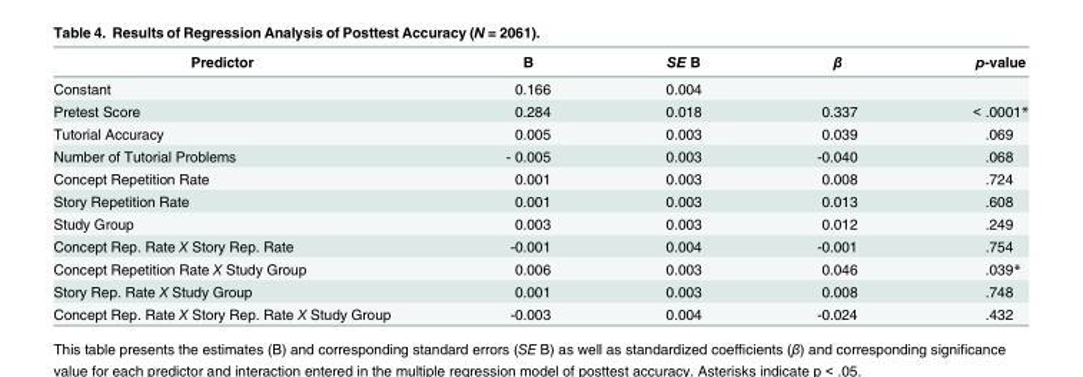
<table><thead><tr><td>Predictor</td><td>B</td><td>SE B</td><td>β</td><td>p-value</td></tr></thead><tbody><tr><td>Constant</td><td>0.166</td><td>0.004</td><td></td><td></td></tr><tr><td>Pretest Score</td><td>0.284</td><td>0.018</td><td>0.337</td><td>&lt; .0001*</td></tr><tr><td>Tutorial Accuracy</td><td>0.005</td><td>0.003</td><td>0.039</td><td>.069</td></tr><tr><td>Number of Tutorial Problems</td><td>- 0.005</td><td>0.003</td><td>-0.040</td><td>.068</td></tr><tr><td>Concept Repetition Rate</td><td>0.001</td><td>0.003</td><td>0.008</td><td>.724</td></tr><tr><td>Story Repetition Rate</td><td>0.001</td><td>0.003</td><td>0.013</td><td>.608</td></tr><tr><td>Study Group</td><td>0.003</td><td>0.003</td><td>0.012</td><td>.249</td></tr><tr><td>Concept Rep. Rate X Story Rep. Rate</td><td>-0.001</td><td>0.004</td><td>-0.001</td><td>.754</td></tr><tr><td>Concept Repetition Rate X Study Group</td><td>0.006</td><td>0.003</td><td>0.046</td><td>.039*</td></tr><tr><td>Story Rep. Rate X Study Group</td><td>0.001</td><td>0.003</td><td>0.008</td><td>.748</td></tr><tr><td>Concept Rep. Rate X Story Rep. Rate X Study Group</td><td>-0.003</td><td>0.004</td><td>-0.024</td><td>.432</td></tr></tbody></table>